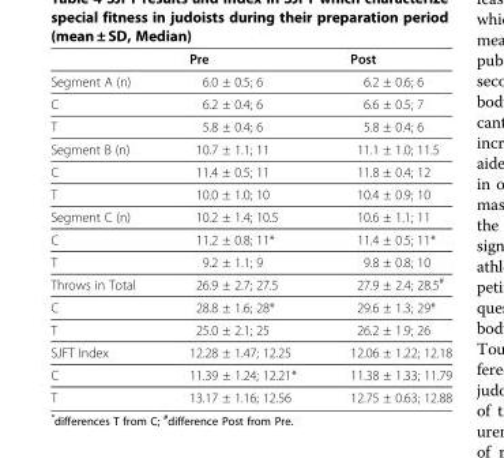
<table><thead><tr><td></td><td>Pre</td><td>Post</td></tr></thead><tbody><tr><td>Segment A (n)</td><td>6.0 ± 0.5; 6</td><td>6.2 ± 0.6; 6</td></tr><tr><td>C</td><td>6.2 ± 0.4; 6</td><td>6.6 ± 0.5; 7</td></tr><tr><td>T</td><td>5.8 ± 0.4; 6</td><td>5.8 ± 0.4; 6</td></tr><tr><td>Segment B (n)</td><td>10.7 ± 1.1; 11</td><td>11.1 ± 1.0; 11.5</td></tr><tr><td>C</td><td>11.4 ± 0.5; 11</td><td>11.8 ± 0.4; 12</td></tr><tr><td>T</td><td>10.0 ± 1.0; 10</td><td>10.4 ± 0.9; 10</td></tr><tr><td>Segment C (n)</td><td>10.2 ± 1.4; 10.5</td><td>10.6 ± 1.1; 11</td></tr><tr><td>C</td><td>11.2 ± 0.8; 11*</td><td>11.4 ± 0.5; 11*</td></tr><tr><td>T</td><td>9.2 ± 1.1; 9</td><td>9.8 ± 0.8; 10</td></tr><tr><td>Throws in Total</td><td>26.9 ± 2.7; 27.5</td><td>27.9 ± 2.4; 28.5<sup>#</sup></td></tr><tr><td>C</td><td>28.8 ± 1.6; 28*</td><td>29.6 ± 1.3; 29*</td></tr><tr><td>T</td><td>25.0 ± 2.1; 25</td><td>26.2 ± 1.9; 26</td></tr><tr><td>SJFT Index</td><td>12.28 ± 1.47; 12.25</td><td>12.06 ± 1.22; 12.18</td></tr><tr><td>C</td><td>11.39 ± 1.24; 12.21*</td><td>11.38 ± 1.33; 11.79</td></tr><tr><td>T</td><td>13.17 ± 1.16; 12.56</td><td>12.75 ± 0.63; 12.88</td></tr></tbody></table>